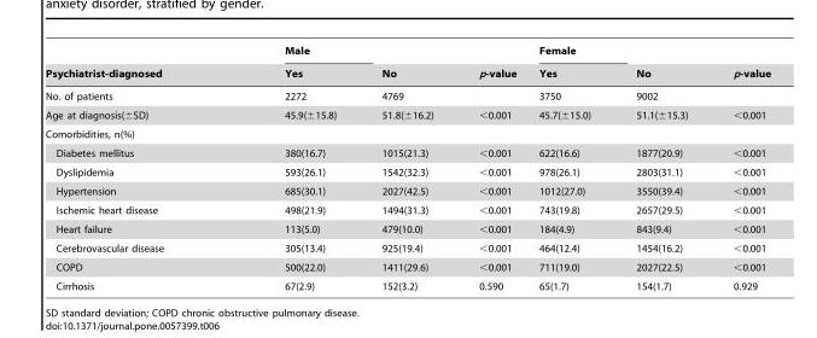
<table><thead><tr><td rowspan="2">Psychiatrist-diagnosed</td><td rowspan="2">Male Yes</td><td rowspan="2">No</td><td rowspan="2">p-value</td><td rowspan="2">Female Yes</td><td rowspan="2">No</td><td rowspan="2">p-value</td></tr><tr></tr></thead><tbody><tr><td>No. of patients</td><td>2272</td><td>4769</td><td></td><td>3750</td><td>9002</td><td></td></tr><tr><td>Age at diagnosis(±SD)</td><td>45.9(±15.8)</td><td>51.8(±16.2)</td><td>&lt;0.001</td><td>45.7(±15.0)</td><td>51.1(±15.3)</td><td>&lt;0.001</td></tr><tr><td colspan="7">Comorbidities, n(%)</td></tr><tr><td>Diabetes mellitus</td><td>380(16.7)</td><td>1015(21.3)</td><td>&lt;0.001</td><td>622(16.6)</td><td>1877(20.9)</td><td>&lt;0.001</td></tr><tr><td>Dyslipidemia</td><td>593(26.1)</td><td>1542(32.3)</td><td>&lt;0.001</td><td>978(26.1)</td><td>2803(31.1)</td><td>&lt;0.001</td></tr><tr><td>Hypertension</td><td>685(30.1)</td><td>2027(42.5)</td><td>&lt;0.001</td><td>1012(27.0)</td><td>3550(39.4)</td><td>&lt;0.001</td></tr><tr><td>Ischemic heart disease</td><td>498(21.9)</td><td>1494(31.3)</td><td>&lt;0.001</td><td>743(19.8)</td><td>2657(29.5)</td><td>&lt;0.001</td></tr><tr><td>Heart failure</td><td>113(5.0)</td><td>479(10.0)</td><td>&lt;0.001</td><td>184(4.9)</td><td>843(9.4)</td><td>&lt;0.001</td></tr><tr><td>Cerebrovascular disease</td><td>305(13.4)</td><td>925(19.4)</td><td>&lt;0.001</td><td>464(12.4)</td><td>1454(16.2)</td><td>&lt;0.001</td></tr><tr><td>COPD</td><td>500(22.0)</td><td>1411(29.6)</td><td>&lt;0.001</td><td>711(19.0)</td><td>2027(22.5)</td><td>&lt;0.001</td></tr><tr><td>Cirrhosis</td><td>67(2.9)</td><td>152(3.2)</td><td>0.590</td><td>65(1.7)</td><td>154(1.7)</td><td>0.929</td></tr></tbody></table>